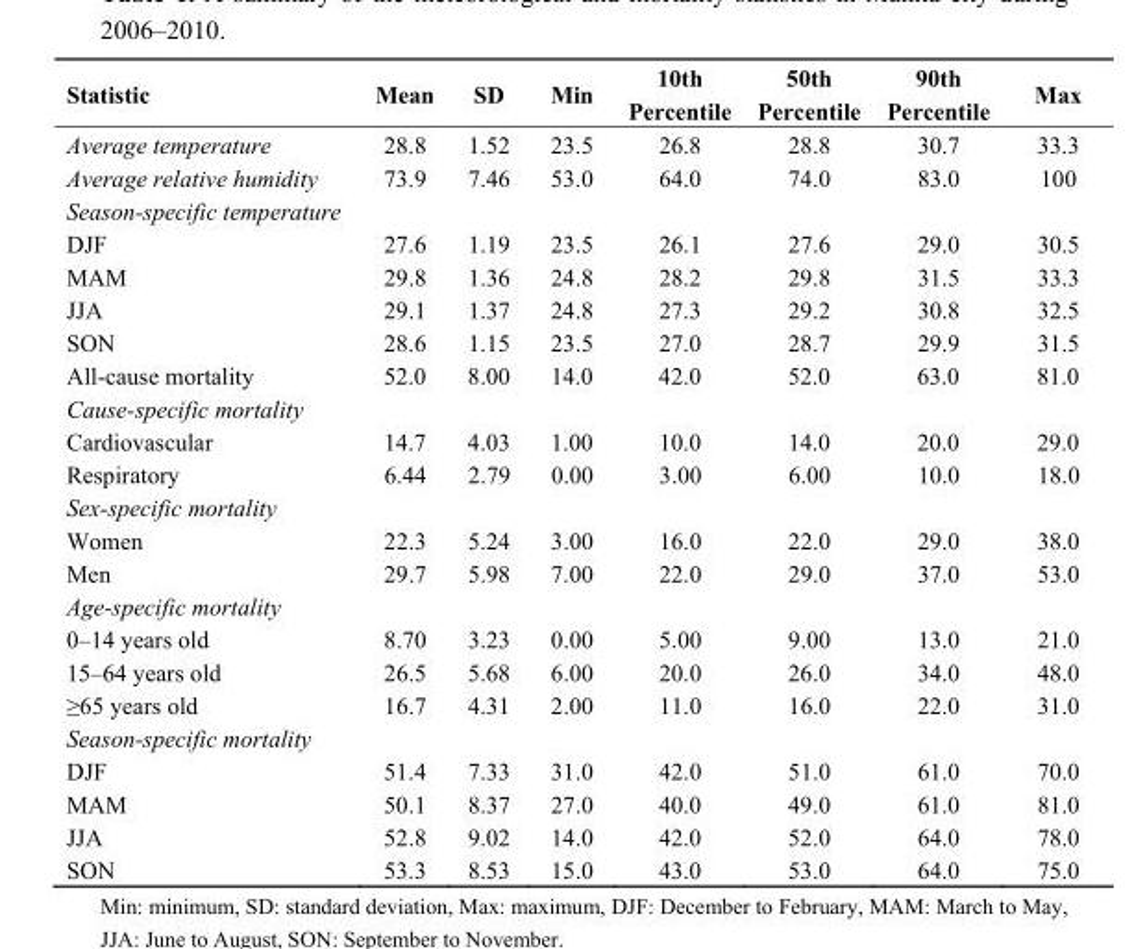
<table><thead><tr><td>Statistic</td><td>Mean</td><td>SD</td><td>Min</td><td>10th Percentile</td><td>50th Percentile</td><td>90th Percentile</td><td>Max</td></tr></thead><tbody><tr><td>Average temperature</td><td>28.8</td><td>1.52</td><td>23.5</td><td>26.8</td><td>28.8</td><td>30.7</td><td>33.3</td></tr><tr><td>Average relative humidity</td><td>73.9</td><td>7.46</td><td>53.0</td><td>64.0</td><td>74.0</td><td>83.0</td><td>100</td></tr><tr><td colspan="8">Season-specific temperature</td></tr><tr><td>DJF</td><td>27.6</td><td>1.19</td><td>23.5</td><td>26.1</td><td>27.6</td><td>29.0</td><td>30.5</td></tr><tr><td>MAM</td><td>29.8</td><td>1.36</td><td>24.8</td><td>28.2</td><td>29.8</td><td>31.5</td><td>33.3</td></tr><tr><td>JJA</td><td>29.1</td><td>1.37</td><td>24.8</td><td>27.3</td><td>29.2</td><td>30.8</td><td>32.5</td></tr><tr><td>SON</td><td>28.6</td><td>1.15</td><td>23.5</td><td>27.0</td><td>28.7</td><td>29.9</td><td>31.5</td></tr><tr><td>All-cause mortality</td><td>52.0</td><td>8.00</td><td>14.0</td><td>42.0</td><td>52.0</td><td>63.0</td><td>81.0</td></tr><tr><td colspan="8">Cause-specific mortality</td></tr><tr><td>Cardiovascular</td><td>14.7</td><td>4.03</td><td>1.00</td><td>10.0</td><td>14.0</td><td>20.0</td><td>29.0</td></tr><tr><td>Respiratory</td><td>6.44</td><td>2.79</td><td>0.00</td><td>3.00</td><td>6.00</td><td>10.0</td><td>18.0</td></tr><tr><td colspan="8">Sex-specific mortality</td></tr><tr><td>Women</td><td>22.3</td><td>5.24</td><td>3.00</td><td>16.0</td><td>22.0</td><td>29.0</td><td>38.0</td></tr><tr><td>Men</td><td>29.7</td><td>5.98</td><td>7.00</td><td>22.0</td><td>29.0</td><td>37.0</td><td>53.0</td></tr><tr><td colspan="8">Age-specific mortality</td></tr><tr><td>0–14 years old</td><td>8.70</td><td>3.23</td><td>0.00</td><td>5.00</td><td>9.00</td><td>13.0</td><td>21.0</td></tr><tr><td>15–64 years old</td><td>26.5</td><td>5.68</td><td>6.00</td><td>20.0</td><td>26.0</td><td>34.0</td><td>48.0</td></tr><tr><td>≥65 years old</td><td>16.7</td><td>4.31</td><td>2.00</td><td>11.0</td><td>16.0</td><td>22.0</td><td>31.0</td></tr><tr><td colspan="8">Season-specific mortality</td></tr><tr><td>DJF</td><td>51.4</td><td>7.33</td><td>31.0</td><td>42.0</td><td>51.0</td><td>61.0</td><td>70.0</td></tr><tr><td>MAM</td><td>50.1</td><td>8.37</td><td>27.0</td><td>40.0</td><td>49.0</td><td>61.0</td><td>81.0</td></tr><tr><td>JJA</td><td>52.8</td><td>9.02</td><td>14.0</td><td>42.0</td><td>52.0</td><td>64.0</td><td>78.0</td></tr><tr><td>SON</td><td>53.3</td><td>8.53</td><td>15.0</td><td>43.0</td><td>53.0</td><td>64.0</td><td>75.0</td></tr></tbody></table>